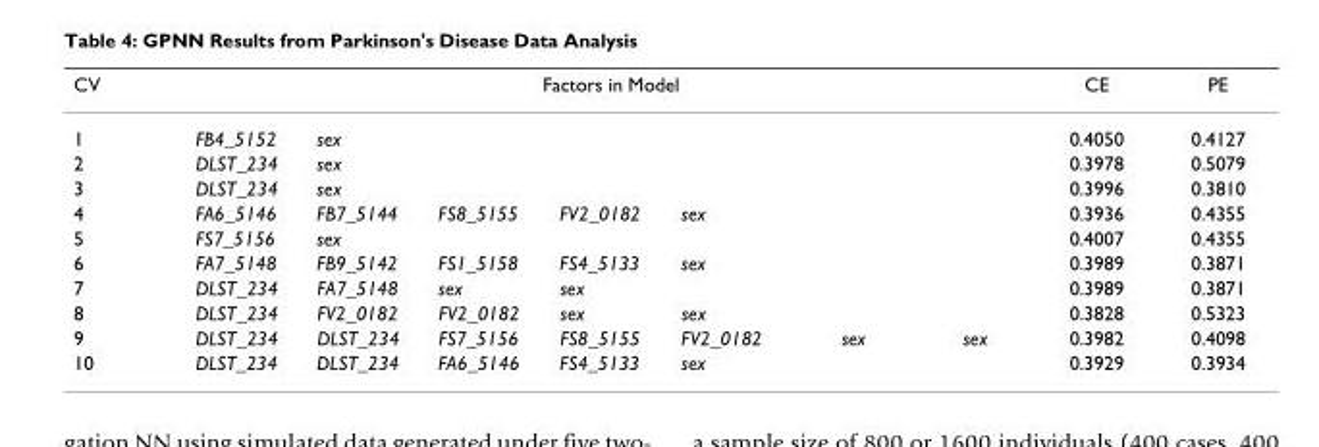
<table><thead><tr><td rowspan="2">CV 1</td><td colspan="7">Factors in Model</td><td rowspan="2">CE 0.4050</td><td rowspan="2">PE 0.4127</td></tr><tr><td>FB4_5152</td><td>sex</td><td></td><td></td><td></td><td></td><td></td></tr></thead><tbody><tr><td>2</td><td>DLST_234</td><td>sex</td><td></td><td></td><td></td><td></td><td></td><td>0.3978</td><td>0.5079</td></tr><tr><td>3</td><td>DLST_234</td><td>sex</td><td></td><td></td><td></td><td></td><td></td><td>0.3996</td><td>0.3810</td></tr><tr><td>4</td><td>FA6_5146</td><td>FB7_5144</td><td>FS8_5155</td><td>FV2_0182</td><td>sex</td><td></td><td></td><td>0.3936</td><td>0.4355</td></tr><tr><td>5</td><td>FS7_5156</td><td>sex</td><td></td><td></td><td></td><td></td><td></td><td>0.4007</td><td>0.4355</td></tr><tr><td>6</td><td>FA7_5148</td><td>FB9_5142</td><td>FS1_5158</td><td>FS4_5133</td><td>sex</td><td></td><td></td><td>0.3989</td><td>0.3871</td></tr><tr><td>7</td><td>DLST_234</td><td>FA7_5148</td><td>sex</td><td>sex</td><td></td><td></td><td></td><td>0.3989</td><td>0.3871</td></tr><tr><td>8</td><td>DLST_234</td><td>FV2_0182</td><td>FV2_0182</td><td>sex</td><td>sex</td><td></td><td></td><td>0.3828</td><td>0.5323</td></tr><tr><td>9</td><td>DLST_234</td><td>DLST_234</td><td>FS7_5156</td><td>FS8_5155</td><td>FV2_0182</td><td>sex</td><td>sex</td><td>0.3982</td><td>0.4098</td></tr><tr><td>10</td><td>DLST_234</td><td>DLST_234</td><td>FA6_5146</td><td>FS4_5133</td><td>sex</td><td></td><td></td><td>0.3929</td><td>0.3934</td></tr></tbody></table>